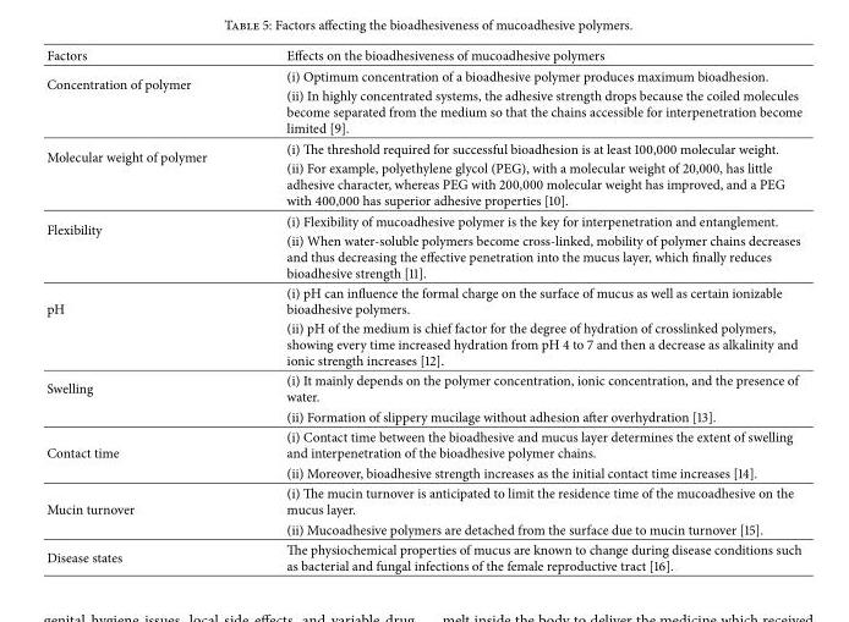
<table><thead><tr><td>Factors</td><td>Effects on the bioadhesiveness of mucoadhesive polymers</td></tr></thead><tbody><tr><td rowspan="2">Concentration of polymer</td><td>(i) Optimum concentration of a bioadhesive polymer produces maximum bioadhesion.</td></tr><tr><td>(ii) In highly concentrated systems, the adhesive strength drops because the coiled molecules become separated from the medium so that the chains accessible for interpenetration become limited [9].</td></tr><tr><td rowspan="2">Molecular weight of polymer</td><td>(i) The threshold required for successful bioadhesion is at least 100,000 molecular weight.</td></tr><tr><td>(ii) For example, polyethylene glycol (PEG), with a molecular weight of 20,000, has little adhesive character, whereas PEG with 200,000 molecular weight has improved, and a PEG with 400,000 has superior adhesive properties [10].</td></tr><tr><td rowspan="2">Flexibility</td><td>(i) Flexibility of mucoadhesive polymer is the key for interpenetration and entanglement.</td></tr><tr><td>(ii) When water-soluble polymers become cross-linked, mobility of polymer chains decreases and thus decreasing the effective penetration into the mucus layer, which finally reduces bioadhesive strength [11].</td></tr><tr><td rowspan="2">pH</td><td>(i) pH can influence the formal charge on the surface of mucus as well as certain ionizable bioadhesive polymers.</td></tr><tr><td>(ii) pH of the medium is chief factor for the degree of hydration of crosslinked polymers, showing every time increased hydration from pH 4 to 7 and then a decrease as alkalinity and ionic strength increases [12].</td></tr><tr><td rowspan="2">Swelling</td><td>(i) It mainly depends on the polymer concentration, ionic concentration, and the presence of water.</td></tr><tr><td>(ii) Formation of slippery mucilage without adhesion after overhydration [13].</td></tr><tr><td rowspan="2">Contact time</td><td>(i) Contact time between the bioadhesive and mucus layer determines the extent of swelling and interpenetration of the bioadhesive polymer chains.</td></tr><tr><td>(ii) Moreover, bioadhesive strength increases as the initial contact time increases [14].</td></tr><tr><td rowspan="2">Mucin turnover</td><td>(i) The mucin turnover is anticipated to limit the residence time of the mucoadhesive on the mucus layer.</td></tr><tr><td>(ii) Mucoadhesive polymers are detached from the surface due to mucin turnover [15].</td></tr><tr><td>Disease states</td><td>The physiochemical properties of mucus are known to change during disease conditions such as bacterial and fungal infections of the female reproductive tract [16].</td></tr></tbody></table>